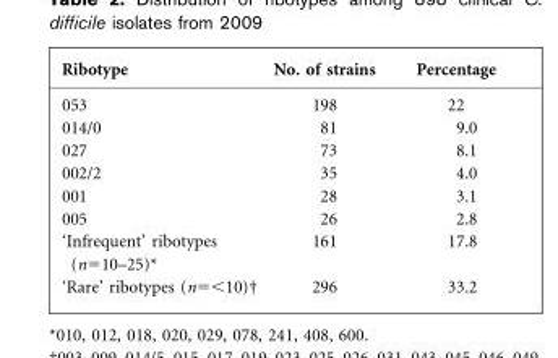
<table><thead><tr><td>Ribotype</td><td>No. of strains</td><td>Percentage</td></tr></thead><tbody><tr><td>053</td><td>198</td><td>22</td></tr><tr><td>014/0</td><td>81</td><td>9.0</td></tr><tr><td>027</td><td>73</td><td>8.1</td></tr><tr><td>002/2</td><td>35</td><td>4.0</td></tr><tr><td>001</td><td>28</td><td>3.1</td></tr><tr><td>005</td><td>26</td><td>2.8</td></tr><tr><td>‘Infrequent’ ribotypes (n=10–25)*</td><td>161</td><td>17.8</td></tr><tr><td>‘Rare’ ribotypes (n=&lt;10)†</td><td>296</td><td>33.2</td></tr></tbody></table>